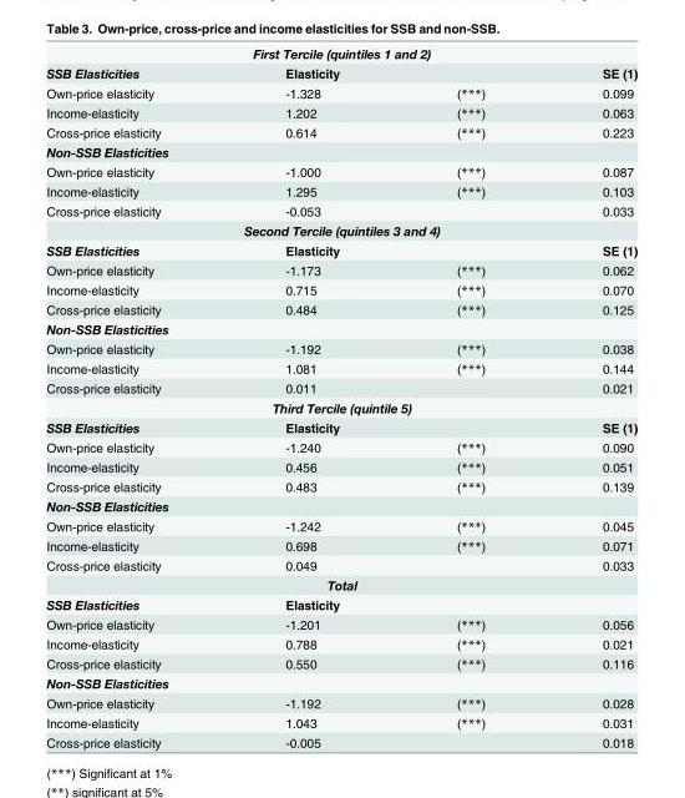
<table><tbody><tr><td colspan="4">First Tercile (quintiles 1 and 2)</td></tr><tr><td>SSB Elasticities</td><td>Elasticity</td><td></td><td>SE (1)</td></tr><tr><td>Own-price elasticity</td><td>-1.328</td><td>(***)</td><td>0.099</td></tr><tr><td>Income-elasticity</td><td>1.202</td><td>(***)</td><td>0.063</td></tr><tr><td>Cross-price elasticity</td><td>0.614</td><td>(***)</td><td>0.223</td></tr><tr><td colspan="4">Non-SSB Elasticities</td></tr><tr><td>Own-price elasticity</td><td>-1.000</td><td>(***)</td><td>0.087</td></tr><tr><td>Income-elasticity</td><td>1.295</td><td>(***)</td><td>0.103</td></tr><tr><td>Cross-price elasticity</td><td>-0.053</td><td></td><td>0.033</td></tr><tr><td colspan="4">Second Tercile (quintiles 3 and 4)</td></tr><tr><td>SSB Elasticities</td><td>Elasticity</td><td></td><td>SE (1)</td></tr><tr><td>Own-price elasticity</td><td>-1.173</td><td>(***)</td><td>0.062</td></tr><tr><td>Income-elasticity</td><td>0.715</td><td>(***)</td><td>0.070</td></tr><tr><td>Cross-price elasticity</td><td>0.484</td><td>(***)</td><td>0.125</td></tr><tr><td colspan="4">Non-SSB Elasticities</td></tr><tr><td>Own-price elasticity</td><td>-1.192</td><td>(***)</td><td>0.038</td></tr><tr><td>Income-elasticity</td><td>1.081</td><td>(***)</td><td>0.144</td></tr><tr><td>Cross-price elasticity</td><td>0.011</td><td></td><td>0.021</td></tr><tr><td colspan="4">Third Tercile (quintile 5)</td></tr><tr><td>SSB Elasticities</td><td>Elasticity</td><td></td><td>SE (1)</td></tr><tr><td>Own-price elasticity</td><td>-1.240</td><td>(***)</td><td>0.090</td></tr><tr><td>Income-elasticity</td><td>0.456</td><td>(***)</td><td>0.051</td></tr><tr><td>Cross-price elasticity</td><td>0.483</td><td>(***)</td><td>0.139</td></tr><tr><td colspan="4">Non-SSB Elasticities</td></tr><tr><td>Own-price elasticity</td><td>-1.242</td><td>(***)</td><td>0.045</td></tr><tr><td>Income-elasticity</td><td>0.698</td><td>(***)</td><td>0.071</td></tr><tr><td>Cross-price elasticity</td><td>0.049</td><td></td><td>0.033</td></tr><tr><td colspan="4">Total</td></tr><tr><td>SSB Elasticities</td><td>Elasticity</td><td></td><td></td></tr><tr><td>Own-price elasticity</td><td>-1.201</td><td>(***)</td><td>0.056</td></tr><tr><td>Income-elasticity</td><td>0.788</td><td>(***)</td><td>0.021</td></tr><tr><td>Cross-price elasticity</td><td>0.550</td><td>(***)</td><td>0.116</td></tr><tr><td colspan="4">Non-SSB Elasticities</td></tr><tr><td>Own-price elasticity</td><td>-1.192</td><td>(***)</td><td>0.028</td></tr><tr><td>Income-elasticity</td><td>1.043</td><td>(***)</td><td>0.031</td></tr><tr><td>Cross-price elasticity</td><td>-0.005</td><td></td><td>0.018</td></tr></tbody></table>